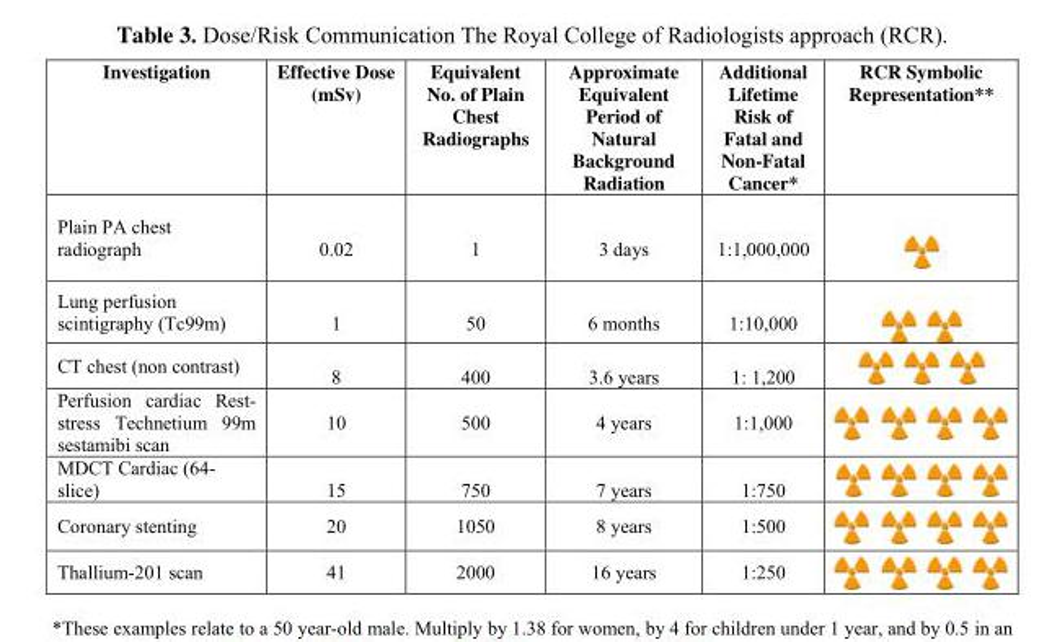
<table><thead><tr><td>Investigation</td><td>Effective Dose (mSv)</td><td>Equivalent No. of Plain Chest Radiographs</td><td>Approximate Equivalent Period of Natural Background Radiation</td><td>Additional Lifetime Risk of Fatal and Non-Fatal Cancer*</td><td>RCR Symbolic Representation**</td></tr></thead><tbody><tr><td>Plain PA chest radiograph</td><td>0.02</td><td>1</td><td>3 days</td><td>1:1,000,000</td><td></td></tr><tr><td>Lung perfusion scintigraphy (Tc99m)</td><td>1</td><td>50</td><td>6 months</td><td>1:10,000</td><td></td></tr><tr><td>CT chest (non contrast)</td><td>8</td><td>400</td><td>3.6 years</td><td>1: 1,200</td><td></td></tr><tr><td>Perfusion cardiac Rest- stress Technetium 99m sestamibi scan</td><td>10</td><td>500</td><td>4 years</td><td>1:1,000</td><td></td></tr><tr><td>MDCT Cardiac (64- slice)</td><td>15</td><td>750</td><td>7 years</td><td>1:750</td><td></td></tr><tr><td>Coronary stenting</td><td>20</td><td>1050</td><td>8 years</td><td>1:500</td><td></td></tr><tr><td>Thallium-201 scan</td><td>41</td><td>2000</td><td>16 years</td><td>1:250</td><td></td></tr></tbody></table>